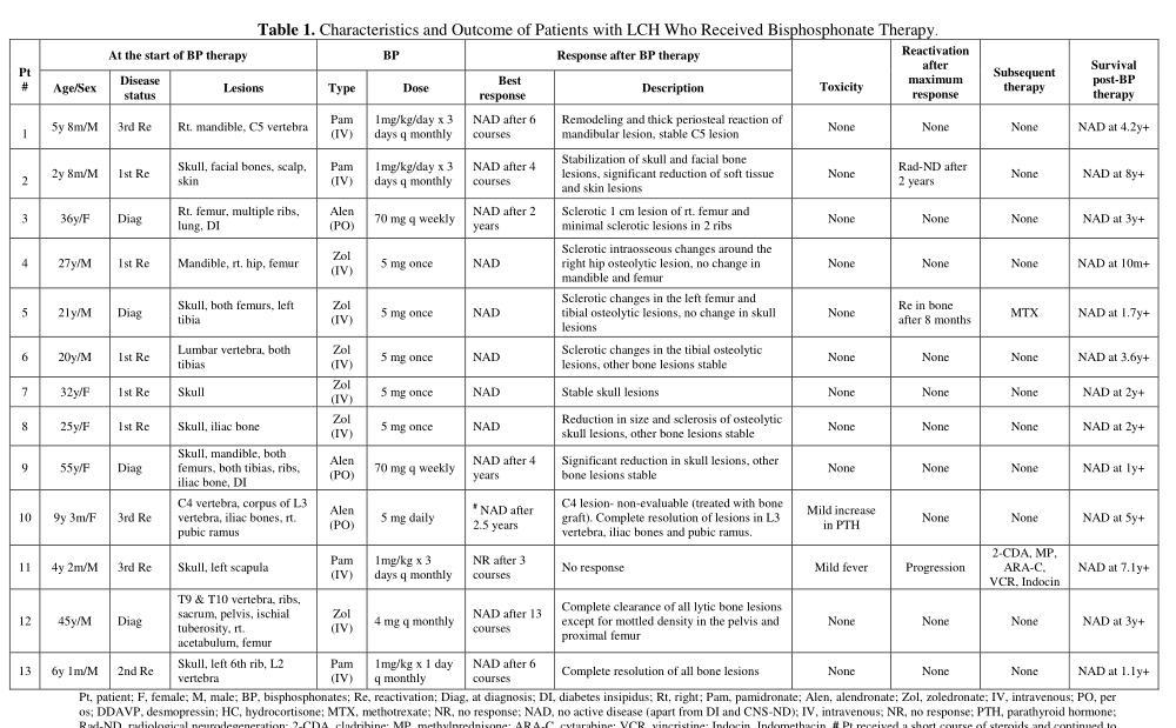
<table><thead><tr><td rowspan="2">Pt #</td><td colspan="3">At the start of BP therapy</td><td colspan="2">BP</td><td colspan="2">Response after BP therapy</td><td rowspan="2">Toxicity</td><td rowspan="2">Reactivation after maximum response</td><td rowspan="2">Subsequent therapy</td><td rowspan="2">Survival post-BP therapy</td></tr><tr><td>Age/Sex</td><td>Disease status</td><td>Lesions</td><td>Type</td><td>Dose</td><td>Best response</td><td>Description</td></tr></thead><tbody><tr><td>1</td><td>5y 8m/M</td><td>3rd Re</td><td>Rt. mandible, C5 vertebra</td><td>Pam (IV)</td><td>1mg/kg/day x 3 days q monthly</td><td>NAD after 6 courses</td><td>Remodeling and thick periosteal reaction of mandibular lesion, stable C5 lesion</td><td>None</td><td>None</td><td>None</td><td>NAD at 4.2y+</td></tr><tr><td>2</td><td>2y 8m/M</td><td>1st Re</td><td>Skull, facial bones, scalp, skin</td><td>Pam (IV)</td><td>1mg/kg/day x 3 days q monthly</td><td>NAD after 4 courses</td><td>Stabilization of skull and facial bone lesions, significant reduction of soft tissue and skin lesions</td><td>None</td><td>Rad-ND after 2 years</td><td>None</td><td>NAD at 8y+</td></tr><tr><td>3</td><td>36y/F</td><td>Diag</td><td>Rt. femur, multiple ribs, lung, DI</td><td>Alen (PO)</td><td>70 mg q weekly</td><td>NAD after 2 years</td><td>Sclerotic 1 cm lesion of rt. femur and minimal sclerotic lesions in 2 ribs</td><td>None</td><td>None</td><td>None</td><td>NAD at 3y+</td></tr><tr><td>4</td><td>27y/M</td><td>1st Re</td><td>Mandible, rt. hip, femur</td><td>Zol (IV)</td><td>5 mg once</td><td>NAD</td><td>Sclerotic intraosseous changes around the right hip osteolytic lesion, no change in mandible and femur</td><td>None</td><td>None</td><td>None</td><td>NAD at 10m+</td></tr><tr><td>5</td><td>21y/M</td><td>Diag</td><td>Skull, both femurs, left tibia</td><td>Zol (IV)</td><td>5 mg once</td><td>NAD</td><td>Sclerotic changes in the left femur and tibial osteolytic lesions, no change in skull lesions</td><td>None</td><td>Re in bone after 8 months</td><td>MTX</td><td>NAD at 1.7y+</td></tr><tr><td>6</td><td>20y/M</td><td>1st Re</td><td>Lumbar vertebra, both tibias</td><td>Zol (IV)</td><td>5 mg once</td><td>NAD</td><td>Sclerotic changes in the tibial osteolytic lesions, other bone lesions stable</td><td>None</td><td>None</td><td>None</td><td>NAD at 3.6y+</td></tr><tr><td>7</td><td>32y/F</td><td>1st Re</td><td>Skull</td><td>Zol (IV)</td><td>5 mg once</td><td>NAD</td><td>Stable skull lesions</td><td>None</td><td>None</td><td>None</td><td>NAD at 2y+</td></tr><tr><td>8</td><td>25y/F</td><td>1st Re</td><td>Skull, iliac bone</td><td>Zol (IV)</td><td>5 mg once</td><td>NAD</td><td>Reduction in size and sclerosis of osteolytic skull lesions, other bone lesions stable</td><td>None</td><td>None</td><td>None</td><td>NAD at 2y+</td></tr><tr><td>9</td><td>55y/F</td><td>Diag</td><td>Skull, mandible, both femurs, both tibias, ribs, iliac bone, DI</td><td>Alen (PO)</td><td>70 mg q weekly</td><td>NAD after 4 years</td><td>Significant reduction in skull lesions, other bone lesions stable</td><td>None</td><td>None</td><td>None</td><td>NAD at 1y+</td></tr><tr><td>10</td><td>9y 3m/F</td><td>3rd Re</td><td>C4 vertebra, corpus of L3 vertebra, iliac bones, rt. pubic ramus</td><td>Alen (PO)</td><td>5 mg daily</td><td># NAD after 2.5 years</td><td>C4 lesion- non-evaluable (treated with bone graft). Complete resolution of lesions in L3 vertebra, iliac bones and pubic ramus.</td><td>Mild increase in PTH</td><td>None</td><td>None</td><td>NAD at 5y+</td></tr><tr><td>11</td><td>4y 2m/M</td><td>3rd Re</td><td>Skull, left scapula</td><td>Pam (IV)</td><td>1mg/kg x 3 days q monthly</td><td>NR after 3 courses</td><td>No response</td><td>Mild fever</td><td>Progression</td><td>2-CDA, MP, ARA-C, VCR, Indocin</td><td>NAD at 7.1y+</td></tr><tr><td>12</td><td>45y/M</td><td>Diag</td><td>T9 &amp; T10 vertebra, ribs, sacrum, pelvis, ischial tuberosity, rt. acetabulum, femur</td><td>Zol (IV)</td><td>4 mg q monthly</td><td>NAD after 13 courses</td><td>Complete clearance of all lytic bone lesions except for mottled density in the pelvis and proximal femur</td><td>None</td><td>None</td><td>None</td><td>NAD at 3y+</td></tr><tr><td>13</td><td>6y 1m/M</td><td>2nd Re</td><td>Skull, left 6th rib, L2 vertebra</td><td>Pam (IV)</td><td>1mg/kg x 1 day q monthly</td><td>NAD after 6 courses</td><td>Complete resolution of all bone lesions</td><td>None</td><td>None</td><td>None</td><td>NAD at 1.1y+</td></tr></tbody></table>